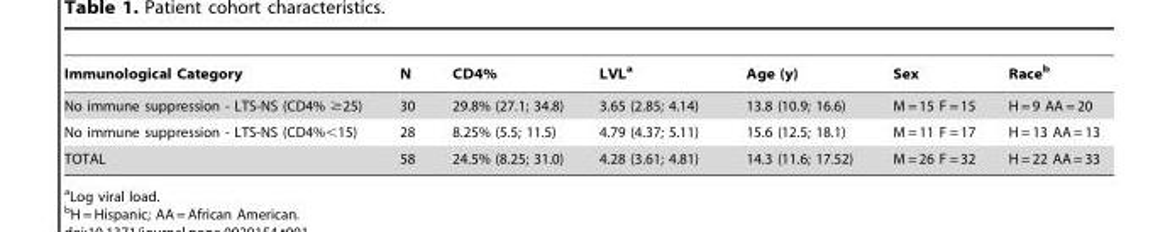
<table><thead><tr><td>Immunological Category</td><td>N</td><td>CD4%</td><td>LVL<sup>a</sup></td><td>Age (y)</td><td>Sex</td><td>Race<sup>b</sup></td></tr></thead><tbody><tr><td>No immune suppression - LTS-NS (CD4% ≥25)</td><td>30</td><td>29.8% (27.1; 34.8)</td><td>3.65 (2.85; 4.14)</td><td>13.8 (10.9; 16.6)</td><td>M = 15 F = 15</td><td>H = 9 AA = 20</td></tr><tr><td>No immune suppression - LTS-NS (CD4%&lt;15)</td><td>28</td><td>8.25% (5.5; 11.5)</td><td>4.79 (4.37; 5.11)</td><td>15.6 (12.5; 18.1)</td><td>M = 11 F = 17</td><td>H = 13 AA = 13</td></tr><tr><td>TOTAL</td><td>58</td><td>24.5% (8.25; 31.0)</td><td>4.28 (3.61; 4.81)</td><td>14.3 (11.6; 17.52)</td><td>M = 26 F = 32</td><td>H = 22 AA = 33</td></tr></tbody></table>